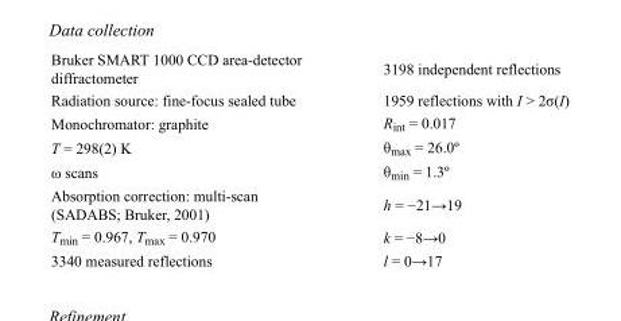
<table><tbody><tr><td>Bruker SMART 1000 CCD area-detector diffractometer</td><td>3198 independent reflections</td></tr><tr><td>Radiation source: fine-focus sealed tube</td><td>1959 reflections with I &gt; 2σ(I)</td></tr><tr><td>Monochromator: graphite</td><td>R<sub>int</sub> = 0.017</td></tr><tr><td>T = 298(2) K</td><td>θ<sub>max</sub> = 26.0º</td></tr><tr><td>ω scans</td><td>θ<sub>min</sub> = 1.3º</td></tr><tr><td>Absorption correction: multi-scan (SADABS; Bruker, 2001)</td><td>h = −21→19</td></tr><tr><td>T<sub>min</sub> = 0.967, T<sub>max</sub> = 0.970</td><td>k = −8→0</td></tr><tr><td>3340 measured reflections</td><td>l = 0→17</td></tr></tbody></table>